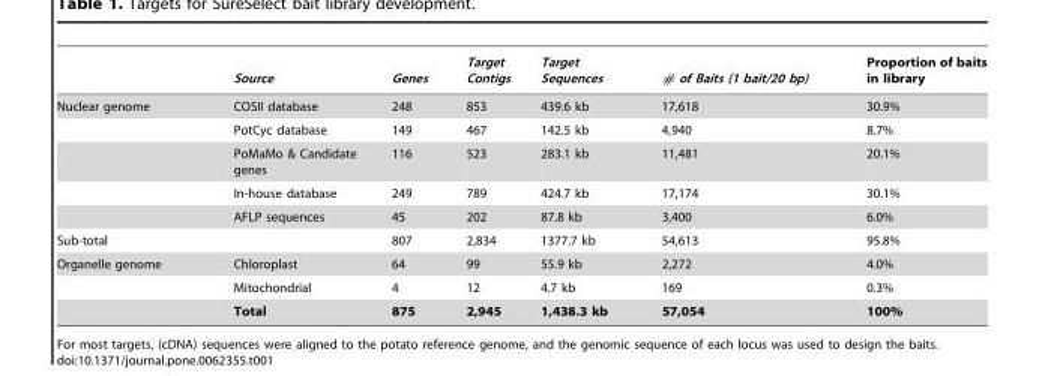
<table><thead><tr><td></td><td>Source</td><td>Genes</td><td>Target Contigs</td><td>Target Sequences</td><td># of Baits (1 bait/20 bp)</td><td>Proportion of baits in library</td></tr></thead><tbody><tr><td rowspan="5">Nuclear genome</td><td>COSII database</td><td>248</td><td>853</td><td>439.6 kb</td><td>17,618</td><td>30.9%</td></tr><tr><td>PotCyc database</td><td>149</td><td>467</td><td>142.5 kb</td><td>4,940</td><td>8.7%</td></tr><tr><td>PoMaMo &amp; Candidate genes</td><td>116</td><td>523</td><td>283.1 kb</td><td>11,481</td><td>20.1%</td></tr><tr><td>In-house database</td><td>249</td><td>789</td><td>424.7 kb</td><td>17,174</td><td>30.1%</td></tr><tr><td>AFLP sequences</td><td>45</td><td>202</td><td>87.8 kb</td><td>3,400</td><td>6.0%</td></tr><tr><td>Sub-total</td><td></td><td>807</td><td>2,834</td><td>1377.7 kb</td><td>54,613</td><td>95.8%</td></tr><tr><td rowspan="3">Organelle genome</td><td>Chloroplast</td><td>64</td><td>99</td><td>55.9 kb</td><td>2,272</td><td>4.0%</td></tr><tr><td>Mitochondrial</td><td>4</td><td>12</td><td>4.7 kb</td><td>169</td><td>0.3%</td></tr><tr><td>Total</td><td>875</td><td>2,945</td><td>1,438.3 kb</td><td>57,054</td><td>100%</td></tr></tbody></table>